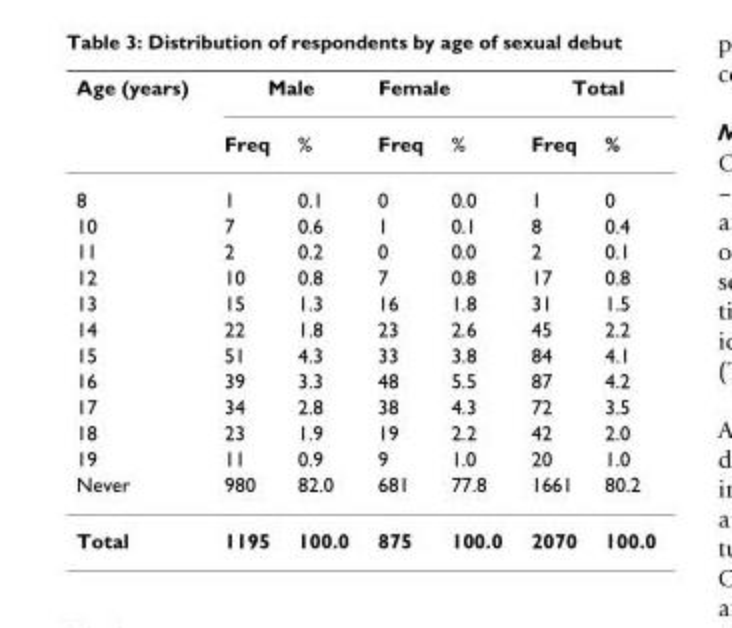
<table><thead><tr><td rowspan="2">Age (years)</td><td colspan="2">Male</td><td colspan="2">Female</td><td colspan="2">Total</td></tr><tr><td>Freq</td><td>%</td><td>Freq</td><td>%</td><td>Freq</td><td>%</td></tr></thead><tbody><tr><td>8</td><td>1</td><td>0.1</td><td>0</td><td>0.0</td><td>1</td><td>0</td></tr><tr><td>10</td><td>7</td><td>0.6</td><td>1</td><td>0.1</td><td>8</td><td>0.4</td></tr><tr><td>11</td><td>2</td><td>0.2</td><td>0</td><td>0.0</td><td>2</td><td>0.1</td></tr><tr><td>12</td><td>10</td><td>0.8</td><td>7</td><td>0.8</td><td>17</td><td>0.8</td></tr><tr><td>13</td><td>15</td><td>1.3</td><td>16</td><td>1.8</td><td>31</td><td>1.5</td></tr><tr><td>14</td><td>22</td><td>1.8</td><td>23</td><td>2.6</td><td>45</td><td>2.2</td></tr><tr><td>15</td><td>51</td><td>4.3</td><td>33</td><td>3.8</td><td>84</td><td>4.1</td></tr><tr><td>16</td><td>39</td><td>3.3</td><td>48</td><td>5.5</td><td>87</td><td>4.2</td></tr><tr><td>17</td><td>34</td><td>2.8</td><td>38</td><td>4.3</td><td>72</td><td>3.5</td></tr><tr><td>18</td><td>23</td><td>1.9</td><td>19</td><td>2.2</td><td>42</td><td>2.0</td></tr><tr><td>19</td><td>11</td><td>0.9</td><td>9</td><td>1.0</td><td>20</td><td>1.0</td></tr><tr><td>Never</td><td>980</td><td>82.0</td><td>681</td><td>77.8</td><td>1661</td><td>80.2</td></tr><tr><td>Total</td><td>1195</td><td>100.0</td><td>875</td><td>100.0</td><td>2070</td><td>100.0</td></tr></tbody></table>